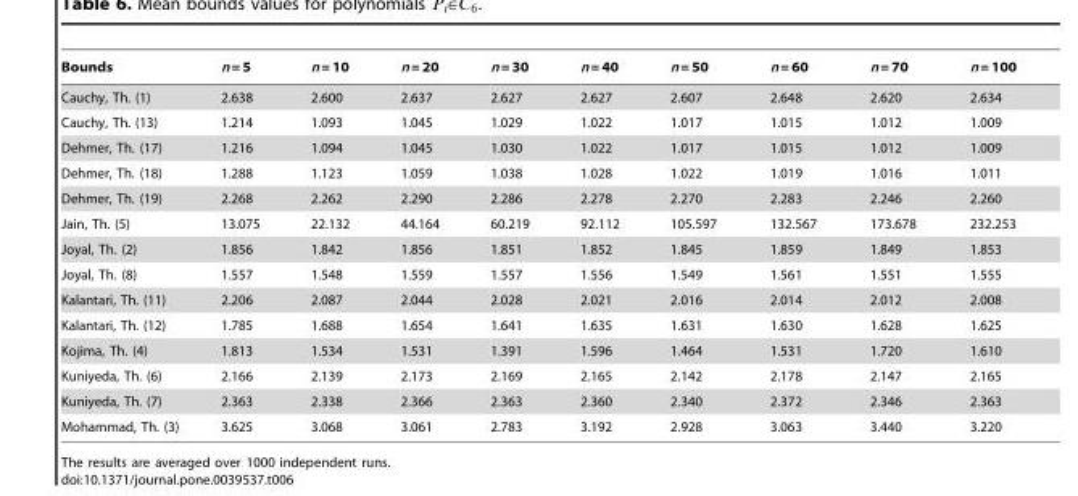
<table><thead><tr><td>Bounds</td><td>n = 5</td><td>n = 10</td><td>n = 20</td><td>n = 30</td><td>n = 40</td><td>n = 50</td><td>n = 60</td><td>n = 70</td><td>n = 100</td></tr></thead><tbody><tr><td>Cauchy, Th. (1)</td><td>2.638</td><td>2.600</td><td>2.637</td><td>2.627</td><td>2.627</td><td>2.607</td><td>2.648</td><td>2.620</td><td>2.634</td></tr><tr><td>Cauchy, Th. (13)</td><td>1.214</td><td>1.093</td><td>1.045</td><td>1.029</td><td>1.022</td><td>1.017</td><td>1.015</td><td>1.012</td><td>1.009</td></tr><tr><td>Dehmer, Th. (17)</td><td>1.216</td><td>1.094</td><td>1.045</td><td>1.030</td><td>1.022</td><td>1.017</td><td>1.015</td><td>1.012</td><td>1.009</td></tr><tr><td>Dehmer, Th. (18)</td><td>1.288</td><td>1.123</td><td>1.059</td><td>1.038</td><td>1.028</td><td>1.022</td><td>1.019</td><td>1.016</td><td>1.011</td></tr><tr><td>Dehmer, Th. (19)</td><td>2.268</td><td>2.262</td><td>2.290</td><td>2.286</td><td>2.278</td><td>2.270</td><td>2.283</td><td>2.246</td><td>2.260</td></tr><tr><td>Jain, Th. (5)</td><td>13.075</td><td>22.132</td><td>44.164</td><td>60.219</td><td>92.112</td><td>105.597</td><td>132.567</td><td>173.678</td><td>232.253</td></tr><tr><td>Joyal, Th. (2)</td><td>1.856</td><td>1.842</td><td>1.856</td><td>1.851</td><td>1.852</td><td>1.845</td><td>1.859</td><td>1.849</td><td>1.853</td></tr><tr><td>Joyal, Th. (8)</td><td>1.557</td><td>1.548</td><td>1.559</td><td>1.557</td><td>1.556</td><td>1.549</td><td>1.561</td><td>1.551</td><td>1.555</td></tr><tr><td>Kalantari, Th. (11)</td><td>2.206</td><td>2.087</td><td>2.044</td><td>2.028</td><td>2.021</td><td>2.016</td><td>2.014</td><td>2.012</td><td>2.008</td></tr><tr><td>Kalantari, Th. (12)</td><td>1.785</td><td>1.688</td><td>1.654</td><td>1.641</td><td>1.635</td><td>1.631</td><td>1.630</td><td>1.628</td><td>1.625</td></tr><tr><td>Kojima, Th. (4)</td><td>1.813</td><td>1.534</td><td>1.531</td><td>1.391</td><td>1.596</td><td>1.464</td><td>1.531</td><td>1.720</td><td>1.610</td></tr><tr><td>Kuniyeda, Th. (6)</td><td>2.166</td><td>2.139</td><td>2.173</td><td>2.169</td><td>2.165</td><td>2.142</td><td>2.178</td><td>2.147</td><td>2.165</td></tr><tr><td>Kuniyeda, Th. (7)</td><td>2.363</td><td>2.338</td><td>2.366</td><td>2.363</td><td>2.360</td><td>2.340</td><td>2.372</td><td>2.346</td><td>2.363</td></tr><tr><td>Mohammad, Th. (3)</td><td>3.625</td><td>3.068</td><td>3.061</td><td>2.783</td><td>3.192</td><td>2.928</td><td>3.063</td><td>3.440</td><td>3.220</td></tr></tbody></table>